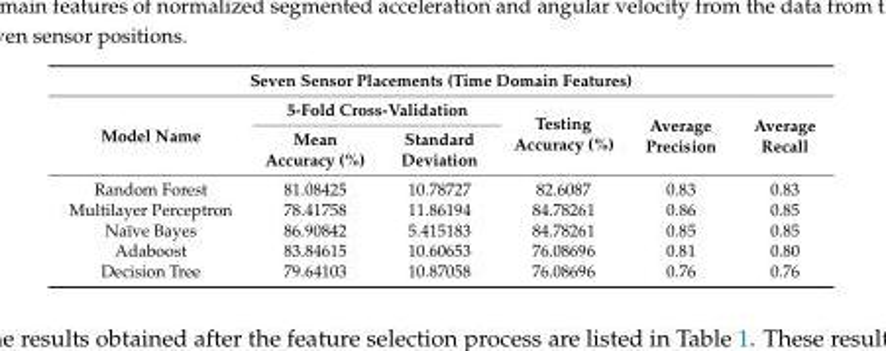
<table><thead><tr><td colspan="6">Seven Sensor Placements (Time Domain Features)</td></tr><tr><td rowspan="2">Model Name</td><td colspan="2">5-Fold Cross-Validation</td><td rowspan="2">Testing Accuracy (%)</td><td rowspan="2">Average Precision</td><td rowspan="2">Average Recall</td></tr><tr><td>Mean Accuracy (%)</td><td>Standard Deviation</td></tr></thead><tbody><tr><td>Random Forest</td><td>81.08425</td><td>10.78727</td><td>82.6087</td><td>0.83</td><td>0.83</td></tr><tr><td>Multilayer Perceptron</td><td>78.41758</td><td>11.86194</td><td>84.78261</td><td>0.86</td><td>0.85</td></tr><tr><td>Naïve Bayes</td><td>86.90842</td><td>5.415183</td><td>84.78261</td><td>0.85</td><td>0.85</td></tr><tr><td>Adaboost</td><td>83.84615</td><td>10.60653</td><td>76.08696</td><td>0.81</td><td>0.80</td></tr><tr><td>Decision Tree</td><td>79.64103</td><td>10.87058</td><td>76.08696</td><td>0.76</td><td>0.76</td></tr></tbody></table>